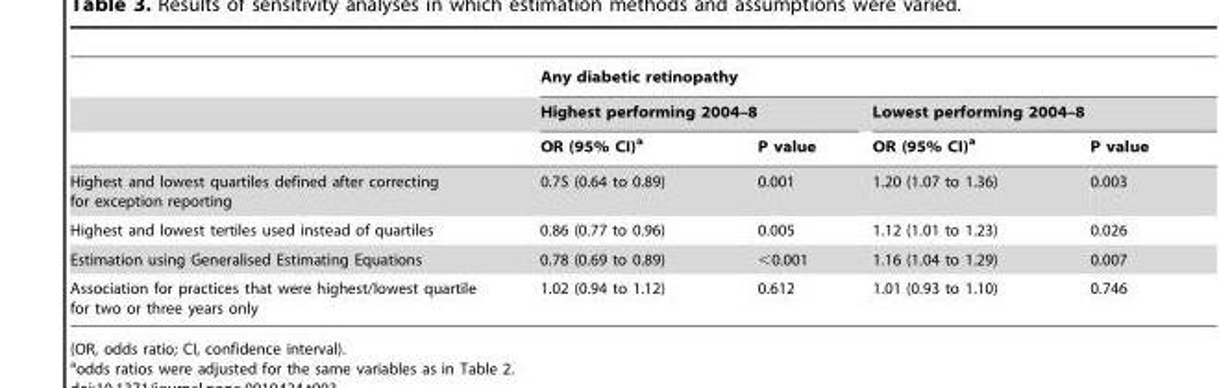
<table><thead><tr><td rowspan="3"></td><td colspan="4">Any diabetic retinopathy</td></tr><tr><td colspan="2">Highest performing 2004–8</td><td colspan="2">Lowest performing 2004–8</td></tr><tr><td>OR (95% CI)<sup>a</sup></td><td>P value</td><td>OR (95% CI)<sup>a</sup></td><td>P value</td></tr></thead><tbody><tr><td>Highest and lowest quartiles defined after correcting for exception reporting</td><td>0.75 (0.64 to 0.89)</td><td>0.001</td><td>1.20 (1.07 to 1.36)</td><td>0.003</td></tr><tr><td>Highest and lowest tertiles used instead of quartiles</td><td>0.86 (0.77 to 0.96)</td><td>0.005</td><td>1.12 (1.01 to 1.23)</td><td>0.026</td></tr><tr><td>Estimation using Generalised Estimating Equations</td><td>0.78 (0.69 to 0.89)</td><td>&lt;0.001</td><td>1.16 (1.04 to 1.29)</td><td>0.007</td></tr><tr><td>Association for practices that were highest/lowest quartile for two or three years only</td><td>1.02 (0.94 to 1.12)</td><td>0.612</td><td>1.01 (0.93 to 1.10)</td><td>0.746</td></tr></tbody></table>